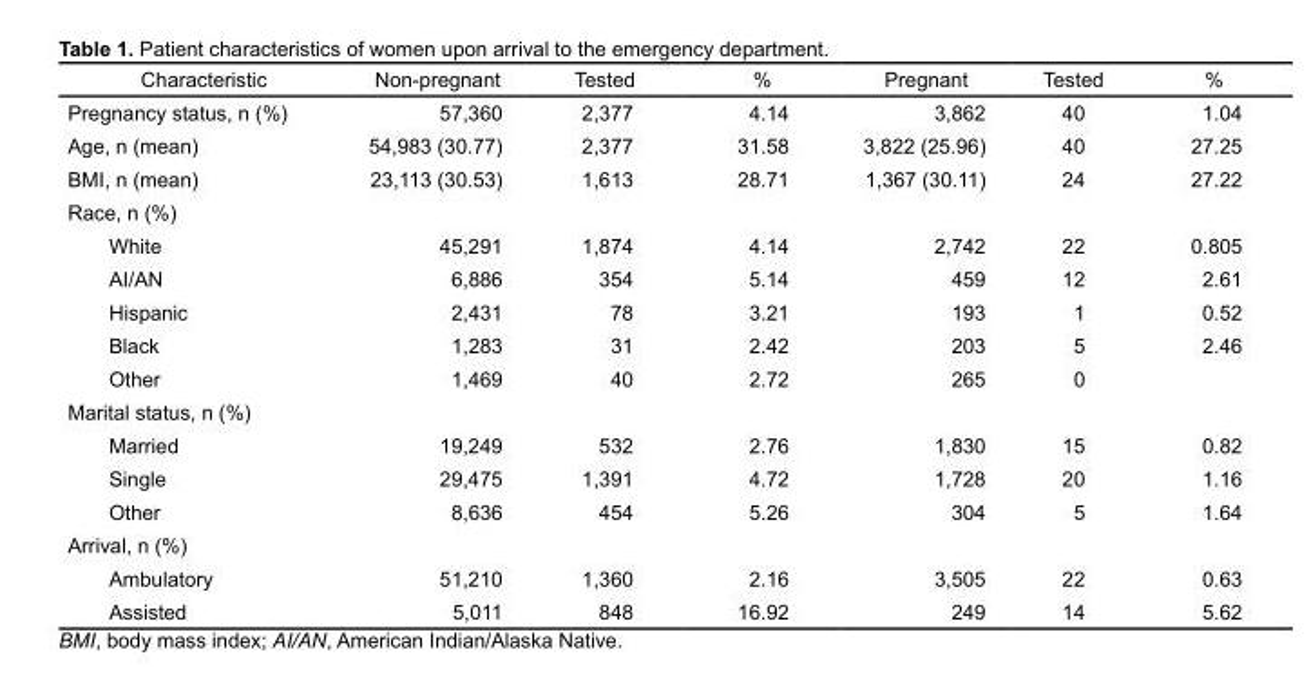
<table><thead><tr><td>Characteristic</td><td>Non-pregnant</td><td>Tested</td><td>%</td><td>Pregnant</td><td>Tested</td><td>%</td></tr></thead><tbody><tr><td>Pregnancy status, n (%)</td><td>57,360</td><td>2,377</td><td>4.14</td><td>3,862</td><td>40</td><td>1.04</td></tr><tr><td>Age, n (mean)</td><td>54,983 (30.77)</td><td>2,377</td><td>31.58</td><td>3,822 (25.96)</td><td>40</td><td>27.25</td></tr><tr><td>BMI, n (mean)</td><td>23,113 (30.53)</td><td>1,613</td><td>28.71</td><td>1,367 (30.11)</td><td>24</td><td>27.22</td></tr><tr><td colspan="7">Race, n (%)</td></tr><tr><td>White</td><td>45,291</td><td>1,874</td><td>4.14</td><td>2,742</td><td>22</td><td>0.805</td></tr><tr><td>AI/AN</td><td>6,886</td><td>354</td><td>5.14</td><td>459</td><td>12</td><td>2.61</td></tr><tr><td>Hispanic</td><td>2,431</td><td>78</td><td>3.21</td><td>193</td><td>1</td><td>0.52</td></tr><tr><td>Black</td><td>1,283</td><td>31</td><td>2.42</td><td>203</td><td>5</td><td>2.46</td></tr><tr><td>Other</td><td>1,469</td><td>40</td><td>2.72</td><td>265</td><td>0</td><td></td></tr><tr><td colspan="7">Marital status, n (%)</td></tr><tr><td>Married</td><td>19,249</td><td>532</td><td>2.76</td><td>1,830</td><td>15</td><td>0.82</td></tr><tr><td>Single</td><td>29,475</td><td>1,391</td><td>4.72</td><td>1,728</td><td>20</td><td>1.16</td></tr><tr><td>Other</td><td>8,636</td><td>454</td><td>5.26</td><td>304</td><td>5</td><td>1.64</td></tr><tr><td colspan="7">Arrival, n (%)</td></tr><tr><td>Ambulatory</td><td>51,210</td><td>1,360</td><td>2.16</td><td>3,505</td><td>22</td><td>0.63</td></tr><tr><td>Assisted</td><td>5,011</td><td>848</td><td>16.92</td><td>249</td><td>14</td><td>5.62</td></tr></tbody></table>